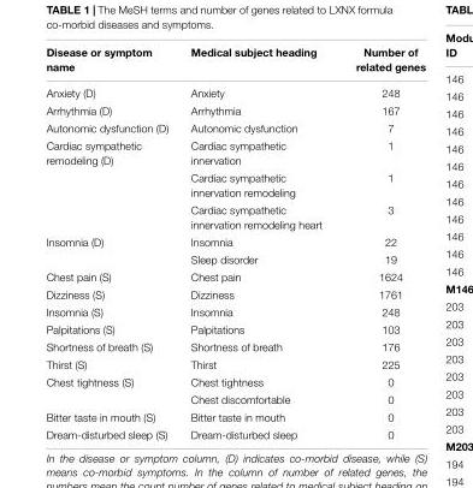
<table><thead><tr><td>Disease or symptom name</td><td>Medical subject heading</td><td>Number of related genes</td></tr></thead><tbody><tr><td>Anxiety (D)</td><td>Anxiety</td><td>248</td></tr><tr><td>Arrhythmia (D)</td><td>Arrhythmia</td><td>167</td></tr><tr><td>Autonomic dysfunction (D)</td><td>Autonomic dysfunction</td><td>7</td></tr><tr><td rowspan="3">Cardiac sympathetic remodeling (D)</td><td>Cardiac sympathetic innervation</td><td>1</td></tr><tr><td>Cardiac sympathetic innervation remodeling</td><td>1</td></tr><tr><td>Cardiac sympathetic innervation remodeling heart</td><td>3</td></tr><tr><td rowspan="2">Insomnia (D)</td><td>Insomnia</td><td>22</td></tr><tr><td>Sleep disorder</td><td>19</td></tr><tr><td>Chest pain (S)</td><td>Chest pain</td><td>1624</td></tr><tr><td>Dizziness (S)</td><td>Dizziness</td><td>1761</td></tr><tr><td>Insomnia (S)</td><td>Insomnia</td><td>248</td></tr><tr><td>Palpitations (S)</td><td>Palpitations</td><td>103</td></tr><tr><td>Shortness of breath (S)</td><td>Shortness of breath</td><td>176</td></tr><tr><td>Thirst (S)</td><td>Thirst</td><td>225</td></tr><tr><td rowspan="2">Chest tightness (S)</td><td>Chest tightness</td><td>0</td></tr><tr><td>Chest discomfortable</td><td>0</td></tr><tr><td>Bitter taste in mouth (S)</td><td>Bitter taste in mouth</td><td>0</td></tr><tr><td>Dream-disturbed sleep (S)</td><td>Dream-disturbed sleep</td><td>0</td></tr></tbody></table>